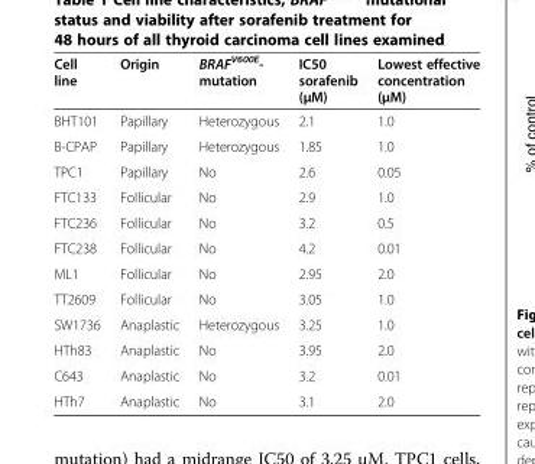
<table><thead><tr><td>Cell line</td><td>Origin</td><td>BRAF<sup>V600E</sup>- mutation</td><td>IC50 sorafenib (μM)</td><td>Lowest effective concentration (μM)</td></tr></thead><tbody><tr><td>BHT101</td><td>Papillary</td><td>Heterozygous</td><td>2.1</td><td>1.0</td></tr><tr><td>B-CPAP</td><td>Papillary</td><td>Heterozygous</td><td>1.85</td><td>1.0</td></tr><tr><td>TPC1</td><td>Papillary</td><td>No</td><td>2.6</td><td>0.05</td></tr><tr><td>FTC133</td><td>Follicular</td><td>No</td><td>2.9</td><td>1.0</td></tr><tr><td>FTC236</td><td>Follicular</td><td>No</td><td>3.2</td><td>0.5</td></tr><tr><td>FTC238</td><td>Follicular</td><td>No</td><td>4.2</td><td>0.01</td></tr><tr><td>ML1</td><td>Follicular</td><td>No</td><td>2.95</td><td>2.0</td></tr><tr><td>TT2609</td><td>Follicular</td><td>No</td><td>3.05</td><td>1.0</td></tr><tr><td>SW1736</td><td>Anaplastic</td><td>Heterozygous</td><td>3.25</td><td>1.0</td></tr><tr><td>HTh83</td><td>Anaplastic</td><td>No</td><td>3.95</td><td>2.0</td></tr><tr><td>C643</td><td>Anaplastic</td><td>No</td><td>3.2</td><td>0.01</td></tr><tr><td>HTh7</td><td>Anaplastic</td><td>No</td><td>3.1</td><td>2.0</td></tr></tbody></table>